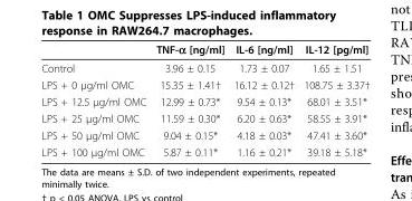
<table><thead><tr><td></td><td>TNF-α [ng/ml]</td><td>IL-6 [ng/ml]</td><td>IL-12 [pg/ml]</td></tr></thead><tbody><tr><td>Control</td><td>3.96 ± 0.15</td><td>1.73 ± 0.07</td><td>1.65 ± 1.51</td></tr><tr><td>LPS + 0 μg/ml OMC</td><td>15.35 ± 1.41†</td><td>16.12 ± 0.12†</td><td>108.75 ± 3.37†</td></tr><tr><td>LPS + 12.5 μg/ml OMC</td><td>12.99 ± 0.73*</td><td>9.54 ± 0.13*</td><td>68.01 ± 3.51*</td></tr><tr><td>LPS + 25 μg/ml OMC</td><td>11.59 ± 0.30*</td><td>6.20 ± 0.63*</td><td>58.55 ± 3.91*</td></tr><tr><td>LPS + 50 μg/ml OMC</td><td>9.04 ± 0.15*</td><td>4.18 ± 0.03*</td><td>47.41 ± 3.60*</td></tr><tr><td>LPS + 100 μg/ml OMC</td><td>5.87 ± 0.11*</td><td>1.16 ± 0.21*</td><td>39.18 ± 5.18*</td></tr></tbody></table>